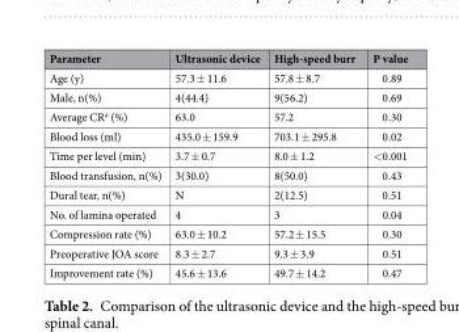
<table><thead><tr><td>Parameter</td><td>Ultrasonic device</td><td>High-speed burr</td><td>P value</td></tr></thead><tbody><tr><td>Age (y)</td><td>57.3 ± 11.6</td><td>57.8 ± 8.7</td><td>0.89</td></tr><tr><td>Male, n(%)</td><td>4(44.4)</td><td>9(56.2)</td><td>0.69</td></tr><tr><td>Average CR<sup>a</sup> (%)</td><td>63.0</td><td>57.2</td><td>0.30</td></tr><tr><td>Blood loss (ml)</td><td>435.0 ± 159.9</td><td>703.1 ± 295.8</td><td>0.02</td></tr><tr><td>Time per level (min)</td><td>3.7 ± 0.7</td><td>8.0 ± 1.2</td><td>&lt;0.001</td></tr><tr><td>Blood transfusion, n(%)</td><td>3(30.0)</td><td>8(50.0)</td><td>0.43</td></tr><tr><td>Dural tear, n(%)</td><td>N</td><td>2(12.5)</td><td>0.51</td></tr><tr><td>No. of lamina operated</td><td>4</td><td>3</td><td>0.04</td></tr><tr><td>Compression rate (%)</td><td>63.0 ± 10.2</td><td>57.2 ± 15.5</td><td>0.30</td></tr><tr><td>Preoperative JOA score</td><td>8.3 ± 2.7</td><td>9.3 ± 3.9</td><td>0.51</td></tr><tr><td>Improvement rate (%)</td><td>45.6 ± 13.6</td><td>49.7 ± 14.2</td><td>0.47</td></tr></tbody></table>